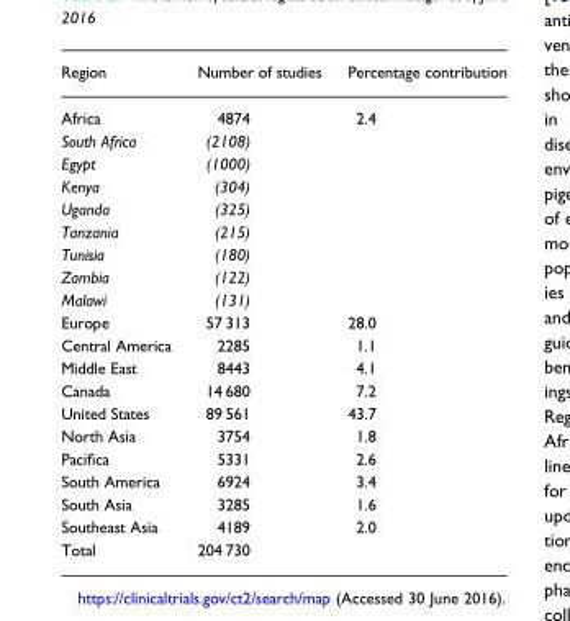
<table><thead><tr><td>Region</td><td>Number of studies</td><td>Percentage contribution</td></tr></thead><tbody><tr><td>Africa</td><td>4874</td><td>2.4</td></tr><tr><td>South Africa</td><td>(2108)</td><td></td></tr><tr><td>Egypt</td><td>(1000)</td><td></td></tr><tr><td>Kenya</td><td>(304)</td><td></td></tr><tr><td>Uganda</td><td>(325)</td><td></td></tr><tr><td>Tanzania</td><td>(215)</td><td></td></tr><tr><td>Tunisia</td><td>(180)</td><td></td></tr><tr><td>Zambia</td><td>(122)</td><td></td></tr><tr><td>Malawi</td><td>(131)</td><td></td></tr><tr><td>Europe</td><td>57 313</td><td>28.0</td></tr><tr><td>Central America</td><td>2285</td><td>1.1</td></tr><tr><td>Middle East</td><td>8443</td><td>4.1</td></tr><tr><td>Canada</td><td>14 680</td><td>7.2</td></tr><tr><td>United States</td><td>89 561</td><td>43.7</td></tr><tr><td>North Asia</td><td>3754</td><td>1.8</td></tr><tr><td>Pacifica</td><td>5331</td><td>2.6</td></tr><tr><td>South America</td><td>6924</td><td>3.4</td></tr><tr><td>South Asia</td><td>3285</td><td>1.6</td></tr><tr><td>Southeast Asia</td><td>4189</td><td>2.0</td></tr><tr><td>Total</td><td>204 730</td><td></td></tr></tbody></table>